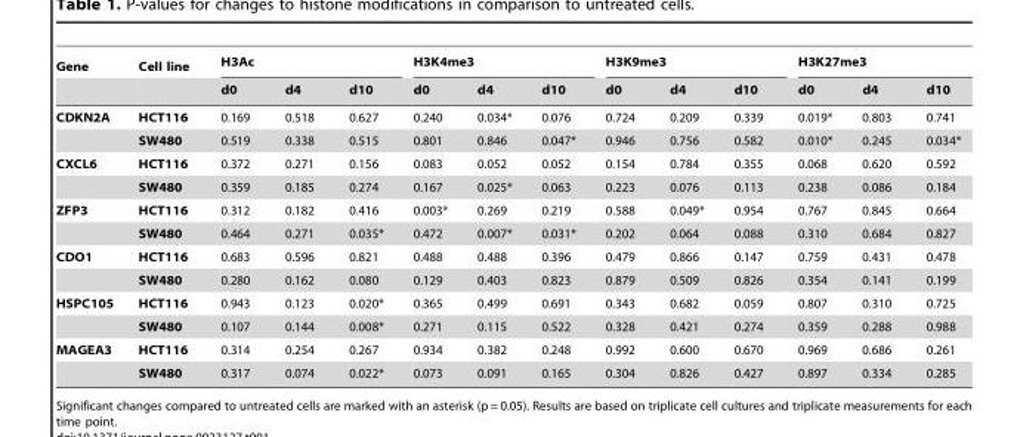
<table><thead><tr><td rowspan="2">Gene</td><td rowspan="2">Cell line</td><td colspan="3">H3Ac</td><td colspan="3">H3K4me3</td><td colspan="3">H3K9me3</td><td colspan="3">H3K27me3</td></tr><tr><td>d0</td><td>d4</td><td>d10</td><td>d0</td><td>d4</td><td>d10</td><td>d0</td><td>d4</td><td>d10</td><td>d0</td><td>d4</td><td>d10</td></tr></thead><tbody><tr><td rowspan="2">CDKN2A</td><td>HCT116</td><td>0.169</td><td>0.518</td><td>0.627</td><td>0.240</td><td>0.034*</td><td>0.076</td><td>0.724</td><td>0.209</td><td>0.339</td><td>0.019*</td><td>0.803</td><td>0.741</td></tr><tr><td>SW480</td><td>0.519</td><td>0.338</td><td>0.515</td><td>0.801</td><td>0.846</td><td>0.047*</td><td>0.946</td><td>0.756</td><td>0.582</td><td>0.010*</td><td>0.245</td><td>0.034*</td></tr><tr><td rowspan="2">CXCL6</td><td>HCT116</td><td>0.372</td><td>0.271</td><td>0.156</td><td>0.083</td><td>0.052</td><td>0.052</td><td>0.154</td><td>0.784</td><td>0.355</td><td>0.068</td><td>0.620</td><td>0.592</td></tr><tr><td>SW480</td><td>0.359</td><td>0.185</td><td>0.274</td><td>0.167</td><td>0.025*</td><td>0.063</td><td>0.223</td><td>0.076</td><td>0.113</td><td>0.238</td><td>0.086</td><td>0.184</td></tr><tr><td rowspan="2">ZFP3</td><td>HCT116</td><td>0.312</td><td>0.182</td><td>0.416</td><td>0.003*</td><td>0.269</td><td>0.219</td><td>0.588</td><td>0.049*</td><td>0.954</td><td>0.767</td><td>0.845</td><td>0.664</td></tr><tr><td>SW480</td><td>0.464</td><td>0.271</td><td>0.035*</td><td>0.472</td><td>0.007*</td><td>0.031*</td><td>0.202</td><td>0.064</td><td>0.088</td><td>0.310</td><td>0.684</td><td>0.827</td></tr><tr><td rowspan="2">CDO1</td><td>HCT116</td><td>0.683</td><td>0.596</td><td>0.821</td><td>0.488</td><td>0.488</td><td>0.396</td><td>0.479</td><td>0.866</td><td>0.147</td><td>0.759</td><td>0.431</td><td>0.478</td></tr><tr><td>SW480</td><td>0.280</td><td>0.162</td><td>0.080</td><td>0.129</td><td>0.403</td><td>0.823</td><td>0.879</td><td>0.509</td><td>0.826</td><td>0.354</td><td>0.141</td><td>0.199</td></tr><tr><td rowspan="2">HSPC105</td><td>HCT116</td><td>0.943</td><td>0.123</td><td>0.020*</td><td>0.365</td><td>0.499</td><td>0.691</td><td>0.343</td><td>0.682</td><td>0.059</td><td>0.807</td><td>0.310</td><td>0.725</td></tr><tr><td>SW480</td><td>0.107</td><td>0.144</td><td>0.008*</td><td>0.271</td><td>0.115</td><td>0.522</td><td>0.328</td><td>0.421</td><td>0.274</td><td>0.359</td><td>0.288</td><td>0.988</td></tr><tr><td rowspan="2">MAGEA3</td><td>HCT116</td><td>0.314</td><td>0.254</td><td>0.267</td><td>0.934</td><td>0.382</td><td>0.248</td><td>0.992</td><td>0.600</td><td>0.670</td><td>0.969</td><td>0.686</td><td>0.261</td></tr><tr><td>SW480</td><td>0.317</td><td>0.074</td><td>0.022*</td><td>0.073</td><td>0.091</td><td>0.165</td><td>0.304</td><td>0.826</td><td>0.427</td><td>0.897</td><td>0.334</td><td>0.285</td></tr></tbody></table>